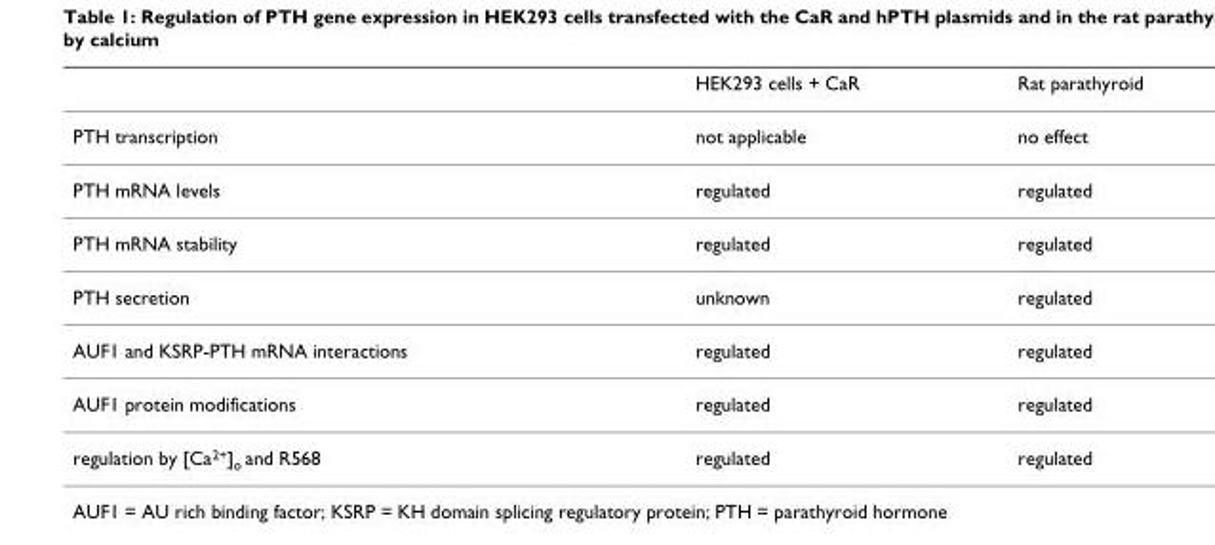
<table><thead><tr><td></td><td>HEK293 cells + CaR</td><td>Rat parathyroid</td></tr></thead><tbody><tr><td>PTH transcription</td><td>not applicable</td><td>no effect</td></tr><tr><td>PTH mRNA levels</td><td>regulated</td><td>regulated</td></tr><tr><td>PTH mRNA stability</td><td>regulated</td><td>regulated</td></tr><tr><td>PTH secretion</td><td>unknown</td><td>regulated</td></tr><tr><td>AUF1 and KSRP-PTH mRNA interactions</td><td>regulated</td><td>regulated</td></tr><tr><td>AUF1 protein modifications</td><td>regulated</td><td>regulated</td></tr><tr><td>regulation by [Ca<sup>2+</sup>]<sub>o</sub> and R568</td><td>regulated</td><td>regulated</td></tr></tbody></table>